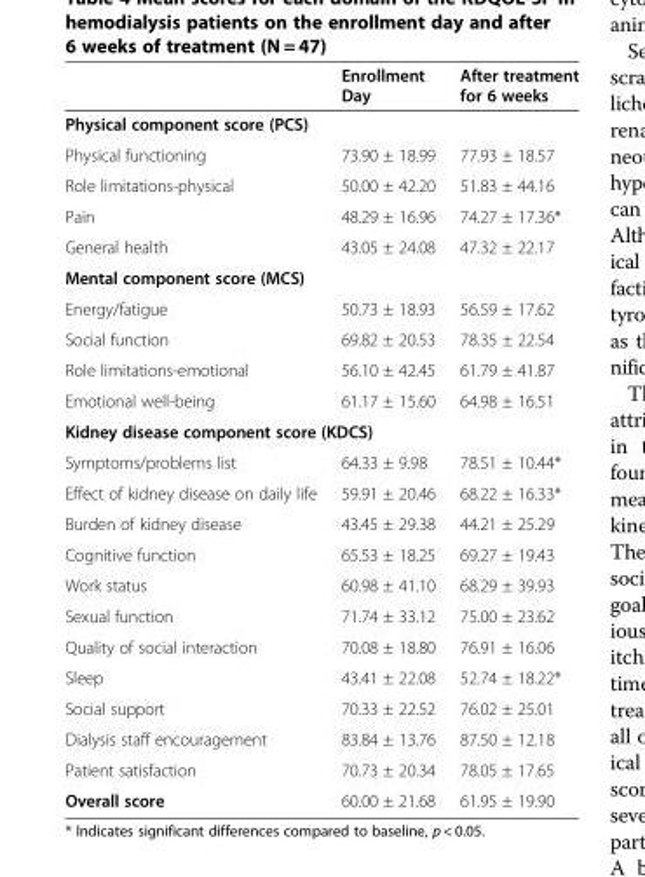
<table><thead><tr><td></td><td>Enrollment Day</td><td>After treatment for 6 weeks</td></tr></thead><tbody><tr><td colspan="3">Physical component score (PCS)</td></tr><tr><td>Physical functioning</td><td>73.90 ± 18.99</td><td>77.93 ± 18.57</td></tr><tr><td>Role limitations-physical</td><td>50.00 ± 42.20</td><td>51.83 ± 44.16</td></tr><tr><td>Pain</td><td>48.29 ± 16.96</td><td>74.27 ± 17.36*</td></tr><tr><td>General health</td><td>43.05 ± 24.08</td><td>47.32 ± 22.17</td></tr><tr><td colspan="3">Mental component score (MCS)</td></tr><tr><td>Energy/fatigue</td><td>50.73 ± 18.93</td><td>56.59 ± 17.62</td></tr><tr><td>Social function</td><td>69.82 ± 20.53</td><td>78.35 ± 22.54</td></tr><tr><td>Role limitations-emotional</td><td>56.10 ± 42.45</td><td>61.79 ± 41.87</td></tr><tr><td>Emotional well-being</td><td>61.17 ± 15.60</td><td>64.98 ± 16.51</td></tr><tr><td colspan="3">Kidney disease component score (KDCS)</td></tr><tr><td>Symptoms/problems list</td><td>64.33 ± 9.98</td><td>78.51 ± 10.44*</td></tr><tr><td>Effect of kidney disease on daily life</td><td>59.91 ± 20.46</td><td>68.22 ± 16.33*</td></tr><tr><td>Burden of kidney disease</td><td>43.45 ± 29.38</td><td>44.21 ± 25.29</td></tr><tr><td>Cognitive function</td><td>65.53 ± 18.25</td><td>69.27 ± 19.43</td></tr><tr><td>Work status</td><td>60.98 ± 41.10</td><td>68.29 ± 39.93</td></tr><tr><td>Sexual function</td><td>71.74 ± 33.12</td><td>75.00 ± 23.62</td></tr><tr><td>Quality of social interaction</td><td>70.08 ± 18.80</td><td>76.91 ± 16.06</td></tr><tr><td>Sleep</td><td>43.41 ± 22.08</td><td>52.74 ± 18.22*</td></tr><tr><td>Social support</td><td>70.33 ± 22.52</td><td>76.02 ± 25.01</td></tr><tr><td>Dialysis staff encouragement</td><td>83.84 ± 13.76</td><td>87.50 ± 12.18</td></tr><tr><td>Patient satisfaction</td><td>70.73 ± 20.34</td><td>78.05 ± 17.65</td></tr><tr><td>Overall score</td><td>60.00 ± 21.68</td><td>61.95 ± 19.90</td></tr></tbody></table>